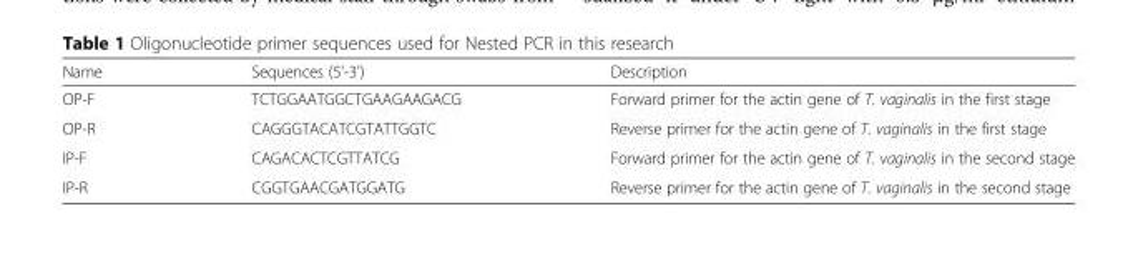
<table><thead><tr><td>Name</td><td>Sequences (5&#x27;-3&#x27;)</td><td>Description</td></tr></thead><tbody><tr><td>OP-F</td><td>TCTGGAATGGCTGAAGAAGACG</td><td>Forward primer for the actin gene of T. vaginalis in the first stage</td></tr><tr><td>OP-R</td><td>CAGGGTACATCGTATTGGTC</td><td>Reverse primer for the actin gene of T. vaginalis in the first stage</td></tr><tr><td>IP-F</td><td>CAGACACTCGTTATCG</td><td>Forward primer for the actin gene of T. vaginalis in the second stage</td></tr><tr><td>IP-R</td><td>CGGTGAACGATGGATG</td><td>Reverse primer for the actin gene of T. vaginalis in the second stage</td></tr></tbody></table>